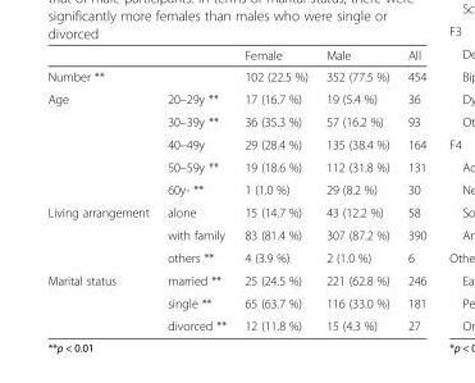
<table><thead><tr><td></td><td></td><td>Female</td><td>Male</td><td>All</td></tr></thead><tbody><tr><td>Number **</td><td></td><td>102 (22.5 %)</td><td>352 (77.5 %)</td><td>454</td></tr><tr><td rowspan="5">Age</td><td>20–29y **</td><td>17 (16.7 %)</td><td>19 (5.4 %)</td><td>36</td></tr><tr><td>30–39y **</td><td>36 (35.3 %)</td><td>57 (16.2 %)</td><td>93</td></tr><tr><td>40–49y</td><td>29 (28.4 %)</td><td>135 (38.4 %)</td><td>164</td></tr><tr><td>50–59y **</td><td>19 (18.6 %)</td><td>112 (31.8 %)</td><td>131</td></tr><tr><td>60y- **</td><td>1 (1.0 %)</td><td>29 (8.2 %)</td><td>30</td></tr><tr><td rowspan="3">Living arrangement</td><td>alone</td><td>15 (14.7 %)</td><td>43 (12.2 %)</td><td>58</td></tr><tr><td>with family</td><td>83 (81.4 %)</td><td>307 (87.2 %)</td><td>390</td></tr><tr><td>others **</td><td>4 (3.9 %)</td><td>2 (1.0 %)</td><td>6</td></tr><tr><td rowspan="3">Marital status</td><td>married **</td><td>25 (24.5 %)</td><td>221 (62.8 %)</td><td>246</td></tr><tr><td>single **</td><td>65 (63.7 %)</td><td>116 (33.0 %)</td><td>181</td></tr><tr><td>divorced **</td><td>12 (11.8 %)</td><td>15 (4.3 %)</td><td>27</td></tr></tbody></table>